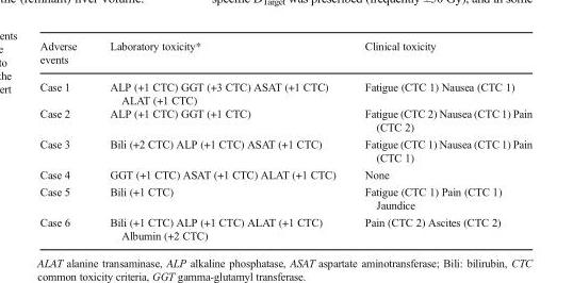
<table><thead><tr><td>Adverse events</td><td>Laboratory toxicity*</td><td>Clinical toxicity</td></tr></thead><tbody><tr><td>Case 1</td><td>ALP (+1 CTC) GGT (+3 CTC) ASAT (+1 CTC) ALAT (+1 CTC)</td><td>Fatigue (CTC 1) Nausea (CTC 1)</td></tr><tr><td>Case 2</td><td>ALP (+1 CTC) GGT (+1 CTC)</td><td>Fatigue (CTC 2) Nausea (CTC 1) Pain (CTC 2)</td></tr><tr><td>Case 3</td><td>Bili (+2 CTC) ALP (+1 CTC) ASAT (+1 CTC)</td><td>Fatigue (CTC 1) Nausea (CTC 1) Pain (CTC 1)</td></tr><tr><td>Case 4</td><td>GGT (+1 CTC) ASAT (+1 CTC) ALAT (+1 CTC)</td><td>None</td></tr><tr><td>Case 5</td><td>Bili (+1 CTC)</td><td>Fatigue (CTC 1) Pain (CTC 1) Jaundice</td></tr><tr><td>Case 6</td><td>Bili (+1 CTC) ALP (+1 CTC) ALAT (+1 CTC) Albumin (+2 CTC)</td><td>Pain (CTC 2) Ascites (CTC 2)</td></tr></tbody></table>